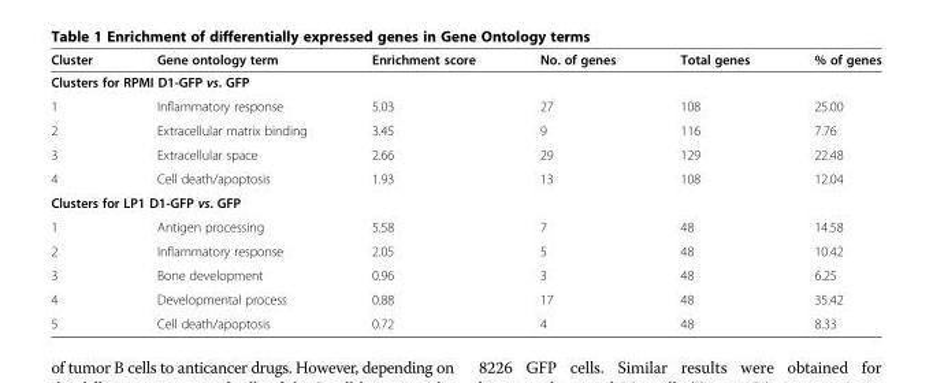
<table><thead><tr><td>Cluster</td><td>Gene ontology term</td><td>Enrichment score</td><td>No. of genes</td><td>Total genes</td><td>% of genes</td></tr></thead><tbody><tr><td colspan="6">Clusters for RPMI D1-GFP vs. GFP</td></tr><tr><td>1</td><td>Inflammatory response</td><td>5.03</td><td>27</td><td>108</td><td>25.00</td></tr><tr><td>2</td><td>Extracellular matrix binding</td><td>3.45</td><td>9</td><td>116</td><td>7.76</td></tr><tr><td>3</td><td>Extracellular space</td><td>2.66</td><td>29</td><td>129</td><td>22.48</td></tr><tr><td>4</td><td>Cell death/apoptosis</td><td>1.93</td><td>13</td><td>108</td><td>12.04</td></tr><tr><td colspan="6">Clusters for LP1 D1-GFP vs. GFP</td></tr><tr><td>1</td><td>Antigen processing</td><td>5.58</td><td>7</td><td>48</td><td>14.58</td></tr><tr><td>2</td><td>Inflammatory response</td><td>2.05</td><td>5</td><td>48</td><td>10.42</td></tr><tr><td>3</td><td>Bone development</td><td>0.96</td><td>3</td><td>48</td><td>6.25</td></tr><tr><td>4</td><td>Developmental process</td><td>0.88</td><td>17</td><td>48</td><td>35.42</td></tr><tr><td>5</td><td>Cell death/apoptosis</td><td>0.72</td><td>4</td><td>48</td><td>8.33</td></tr></tbody></table>